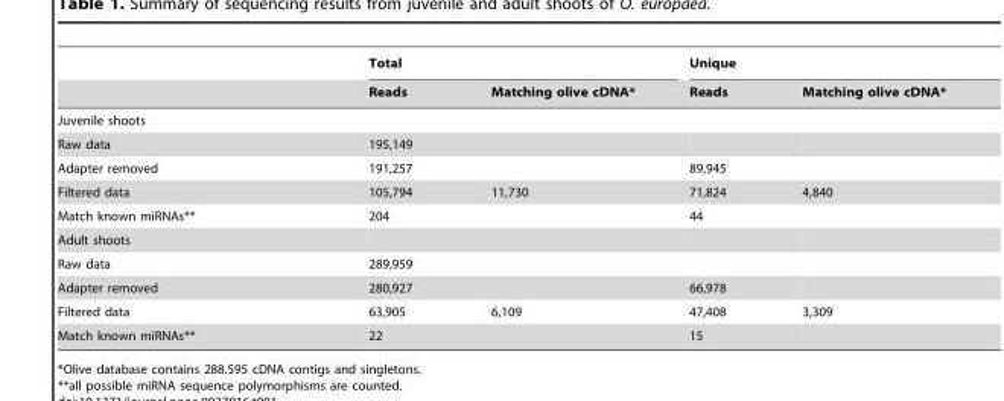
<table><thead><tr><td rowspan="2"></td><td colspan="2">Total</td><td colspan="2">Unique</td></tr><tr><td>Reads</td><td>Matching olive cDNA*</td><td>Reads</td><td>Matching olive cDNA*</td></tr></thead><tbody><tr><td colspan="5">Juvenile shoots</td></tr><tr><td>Raw data</td><td>195,149</td><td></td><td></td><td></td></tr><tr><td>Adapter removed</td><td>191,257</td><td></td><td>89,945</td><td></td></tr><tr><td>Filtered data</td><td>105,794</td><td>11,730</td><td>71,824</td><td>4,840</td></tr><tr><td>Match known miRNAs**</td><td>204</td><td></td><td>44</td><td></td></tr><tr><td colspan="5">Adult shoots</td></tr><tr><td>Raw data</td><td>289,959</td><td></td><td></td><td></td></tr><tr><td>Adapter removed</td><td>280,927</td><td></td><td>66,978</td><td></td></tr><tr><td>Filtered data</td><td>63,905</td><td>6,109</td><td>47,408</td><td>3,309</td></tr><tr><td>Match known miRNAs**</td><td>22</td><td></td><td>15</td><td></td></tr></tbody></table>